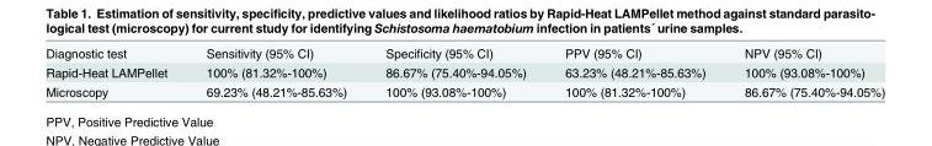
<table><tbody><tr><td>Diagnostic test</td><td>Sensitivity (95% CI)</td><td>Specificity (95% CI)</td><td>PPV (95% CI)</td><td>NPV (95% CI)</td></tr><tr><td>Rapid-Heat LAMPellet</td><td>100% (81.32%-100%)</td><td>86.67% (75.40%-94.05%)</td><td>63.23% (48.21%-85.63%)</td><td>100% (93.08%-100%)</td></tr><tr><td>Microscopy</td><td>69.23% (48.21%-85.63%)</td><td>100% (93.08%-100%)</td><td>100% (81.32%-100%)</td><td>86.67% (75.40%-94.05%)</td></tr></tbody></table>